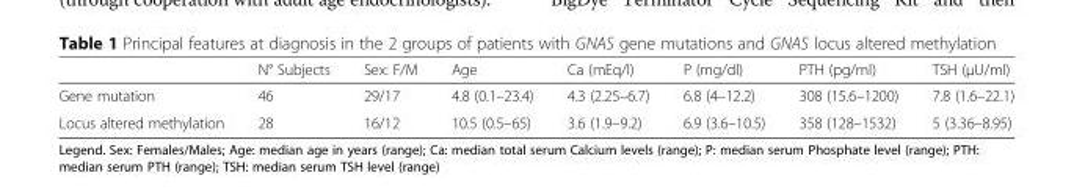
<table><thead><tr><td></td><td>N° Subjects</td><td>Sex: F/M</td><td>Age</td><td>Ca (mEq/l)</td><td>P (mg/dl)</td><td>PTH (pg/ml)</td><td>TSH (μU/ml)</td></tr></thead><tbody><tr><td>Gene mutation</td><td>46</td><td>29/17</td><td>4.8 (0.1–23.4)</td><td>4.3 (2.25–6.7)</td><td>6.8 (4–12.2)</td><td>308 (15.6–1200)</td><td>7.8 (1.6–22.1)</td></tr><tr><td>Locus altered methylation</td><td>28</td><td>16/12</td><td>10.5 (0.5–65)</td><td>3.6 (1.9–9.2)</td><td>6.9 (3.6–10.5)</td><td>358 (128–1532)</td><td>5 (3.36–8.95)</td></tr></tbody></table>